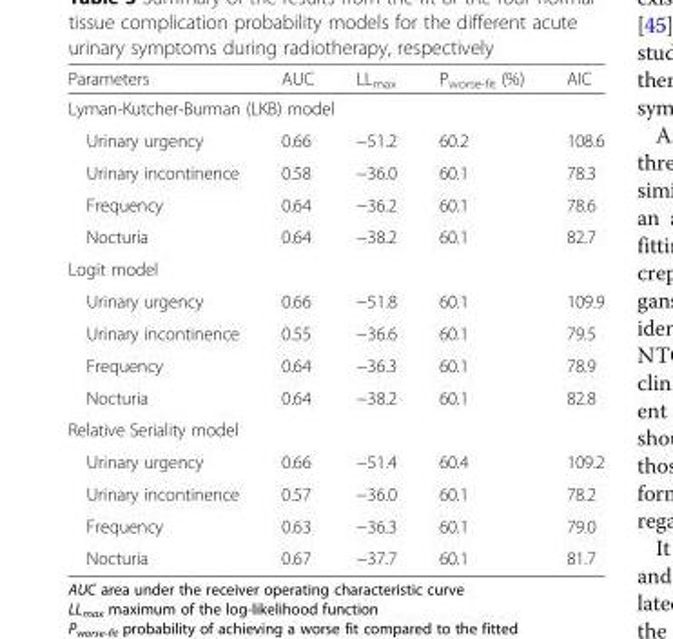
<table><thead><tr><td>Parameters</td><td>AUC</td><td>LL<sub>max</sub></td><td>P<sub>worse-fit</sub> (%)</td><td>AIC</td></tr></thead><tbody><tr><td colspan="5">Lyman-Kutcher-Burman (LKB) model</td></tr><tr><td>Urinary urgency</td><td>0.66</td><td>−51.2</td><td>60.2</td><td>108.6</td></tr><tr><td>Urinary incontinence</td><td>0.58</td><td>−36.0</td><td>60.1</td><td>78.3</td></tr><tr><td>Frequency</td><td>0.64</td><td>−36.2</td><td>60.1</td><td>78.6</td></tr><tr><td>Nocturia</td><td>0.64</td><td>−38.2</td><td>60.1</td><td>82.7</td></tr><tr><td colspan="5">Logit model</td></tr><tr><td>Urinary urgency</td><td>0.66</td><td>−51.8</td><td>60.1</td><td>109.9</td></tr><tr><td>Urinary incontinence</td><td>0.55</td><td>−36.6</td><td>60.1</td><td>79.5</td></tr><tr><td>Frequency</td><td>0.64</td><td>−36.3</td><td>60.1</td><td>78.9</td></tr><tr><td>Nocturia</td><td>0.64</td><td>−38.2</td><td>60.1</td><td>82.8</td></tr><tr><td colspan="5">Relative Seriality model</td></tr><tr><td>Urinary urgency</td><td>0.66</td><td>−51.4</td><td>60.4</td><td>109.2</td></tr><tr><td>Urinary incontinence</td><td>0.57</td><td>−36.0</td><td>60.1</td><td>78.2</td></tr><tr><td>Frequency</td><td>0.63</td><td>−36.3</td><td>60.1</td><td>79.0</td></tr><tr><td>Nocturia</td><td>0.67</td><td>−37.7</td><td>60.1</td><td>81.7</td></tr></tbody></table>